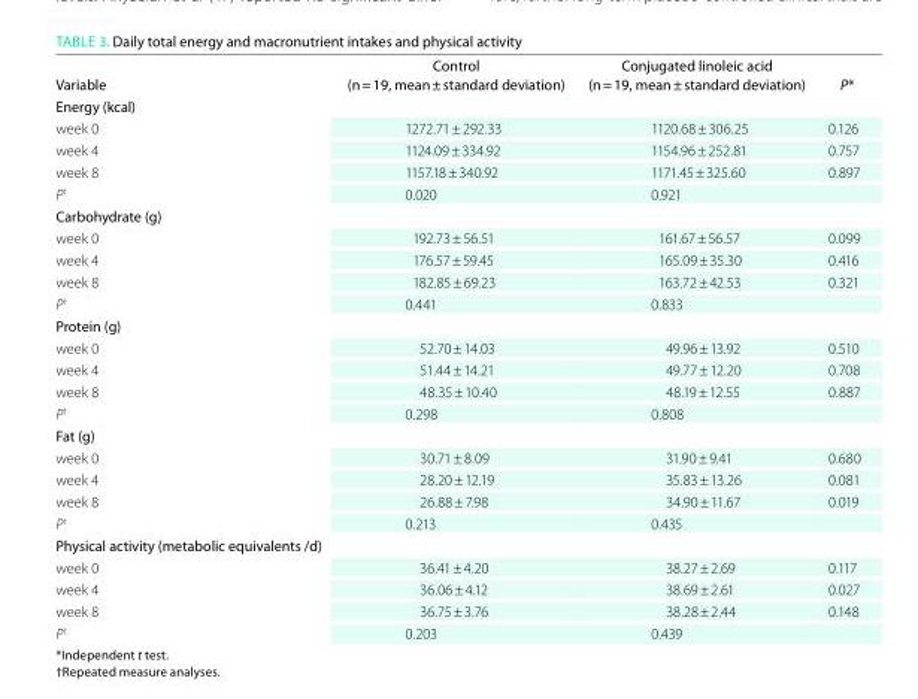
<table><thead><tr><td>Variable</td><td>control (n = 19, mean ± standard deviation)</td><td>conjugated linoleic acid (n = 19, mean ± standard deviation)</td><td>P*</td></tr></thead><tbody><tr><td colspan="4">Energy (kcal)</td></tr><tr><td>week 0</td><td>1272.71 ± 292.33</td><td>1120.68 ± 306.25</td><td>0.126</td></tr><tr><td>week 4</td><td>1124.09 ± 334.92</td><td>1154.96 ± 252.81</td><td>0.757</td></tr><tr><td>week 8</td><td>1157.18 ± 340.92</td><td>1171.45 ± 325.60</td><td>0.897</td></tr><tr><td>P<sup>†</sup></td><td>0.020</td><td>0.921</td><td></td></tr><tr><td colspan="4">carbohydrate (g)</td></tr><tr><td>week 0</td><td>192.73 ± 56.51</td><td>161.67 ± 56.57</td><td>0.099</td></tr><tr><td>week 4</td><td>176.57 ± 59.45</td><td>165.09 ± 35.30</td><td>0.416</td></tr><tr><td>week 8</td><td>182.85 ± 69.23</td><td>163.72 ± 42.53</td><td>0.321</td></tr><tr><td>P<sup>†</sup></td><td>0.441</td><td>0.833</td><td></td></tr><tr><td colspan="4">Protein (g)</td></tr><tr><td>week 0</td><td>52.70 ± 14.03</td><td>49.96 ± 13.92</td><td>0.510</td></tr><tr><td>week 4</td><td>51.44 ± 14.21</td><td>49.77 ± 12.20</td><td>0.708</td></tr><tr><td>week 8</td><td>48.35 ± 10.40</td><td>48.19 ± 12.55</td><td>0.887</td></tr><tr><td>P<sup>†</sup></td><td>0.298</td><td>0.808</td><td></td></tr><tr><td colspan="4">Fat (g)</td></tr><tr><td>week 0</td><td>30.71 ± 8.09</td><td>31.90 ± 9.41</td><td>0.680</td></tr><tr><td>week 4</td><td>28.20 ± 12.19</td><td>35.83 ± 13.26</td><td>0.081</td></tr><tr><td>week 8</td><td>26.88 ± 7.98</td><td>34.90 ± 11.67</td><td>0.019</td></tr><tr><td>P<sup>†</sup></td><td>0.213</td><td>0.435</td><td></td></tr><tr><td colspan="4">Physical activity (metabolic equivalents /d)</td></tr><tr><td>week 0</td><td>36.41 ± 4.20</td><td>38.27 ± 2.69</td><td>0.117</td></tr><tr><td>week 4</td><td>36.06 ± 4.12</td><td>38.69 ± 2.61</td><td>0.027</td></tr><tr><td>week 8</td><td>36.75 ± 3.76</td><td>38.28 ± 2.44</td><td>0.148</td></tr><tr><td>P<sup>†</sup></td><td>0.203</td><td>0.439</td><td></td></tr></tbody></table>